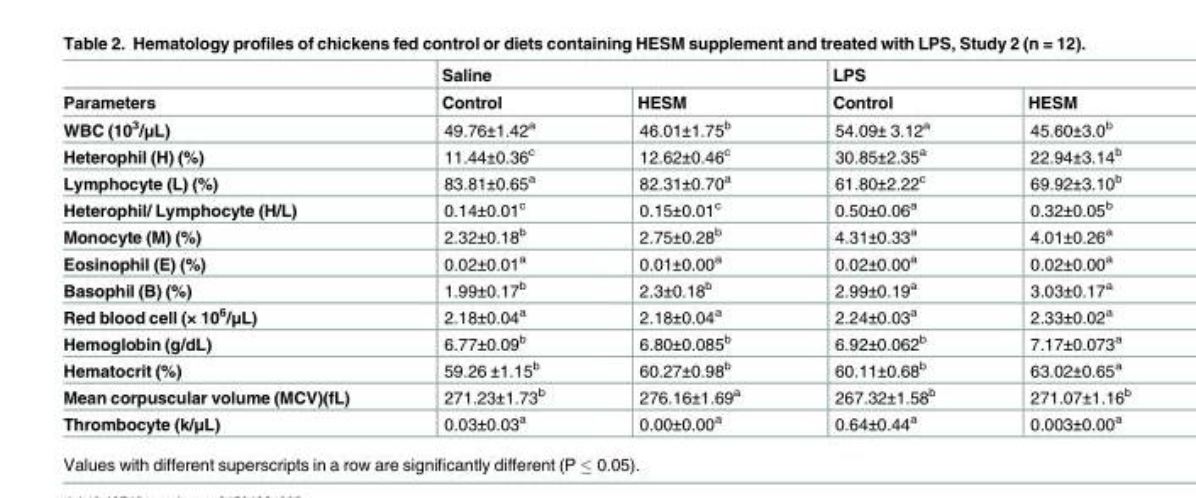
<table><thead><tr><td rowspan="2">Parameters</td><td colspan="2">Saline</td><td colspan="2">LPS</td></tr><tr><td>Control</td><td>HESM</td><td>Control</td><td>HESM</td></tr></thead><tbody><tr><td>WBC (10<sup>3</sup>/μL)</td><td>49.76±1.42<sup>a</sup></td><td>46.01±1.75<sup>b</sup></td><td>54.09± 3.12<sup>a</sup></td><td>45.60±3.0<sup>b</sup></td></tr><tr><td>Heterophil (H) (%)</td><td>11.44±0.36<sup>c</sup></td><td>12.62±0.46<sup>c</sup></td><td>30.85±2.35<sup>a</sup></td><td>22.94±3.14<sup>b</sup></td></tr><tr><td>Lymphocyte (L) (%)</td><td>83.81±0.65<sup>a</sup></td><td>82.31±0.70<sup>a</sup></td><td>61.80±2.22<sup>c</sup></td><td>69.92±3.10<sup>b</sup></td></tr><tr><td>Heterophil/ Lymphocyte (H/L)</td><td>0.14±0.01<sup>c</sup></td><td>0.15±0.01<sup>c</sup></td><td>0.50±0.06<sup>a</sup></td><td>0.32±0.05<sup>b</sup></td></tr><tr><td>Monocyte (M) (%)</td><td>2.32±0.18<sup>b</sup></td><td>2.75±0.28<sup>b</sup></td><td>4.31±0.33<sup>a</sup></td><td>4.01±0.26<sup>a</sup></td></tr><tr><td>Eosinophil (E) (%)</td><td>0.02±0.01<sup>a</sup></td><td>0.01±0.00<sup>a</sup></td><td>0.02±0.00<sup>a</sup></td><td>0.02±0.00<sup>a</sup></td></tr><tr><td>Basophil (B) (%)</td><td>1.99±0.17<sup>b</sup></td><td>2.3±0.18<sup>b</sup></td><td>2.99±0.19<sup>a</sup></td><td>3.03±0.17<sup>a</sup></td></tr><tr><td>Red blood cell (× 10<sup>6</sup>/μL)</td><td>2.18±0.04<sup>a</sup></td><td>2.18±0.04<sup>a</sup></td><td>2.24±0.03<sup>a</sup></td><td>2.33±0.02<sup>a</sup></td></tr><tr><td>Hemoglobin (g/dL)</td><td>6.77±0.09<sup>b</sup></td><td>6.80±0.085<sup>b</sup></td><td>6.92±0.062<sup>b</sup></td><td>7.17±0.073<sup>a</sup></td></tr><tr><td>Hematocrit (%)</td><td>59.26 ±1.15<sup>b</sup></td><td>60.27±0.98<sup>b</sup></td><td>60.11±0.68<sup>b</sup></td><td>63.02±0.65<sup>a</sup></td></tr><tr><td>Mean corpuscular volume (MCV)(fL)</td><td>271.23±1.73<sup>b</sup></td><td>276.16±1.69<sup>a</sup></td><td>267.32±1.58<sup>b</sup></td><td>271.07±1.16<sup>b</sup></td></tr><tr><td>Thrombocyte (k/μL)</td><td>0.03±0.03<sup>a</sup></td><td>0.00±0.00<sup>a</sup></td><td>0.64±0.44<sup>a</sup></td><td>0.003±0.00<sup>a</sup></td></tr></tbody></table>